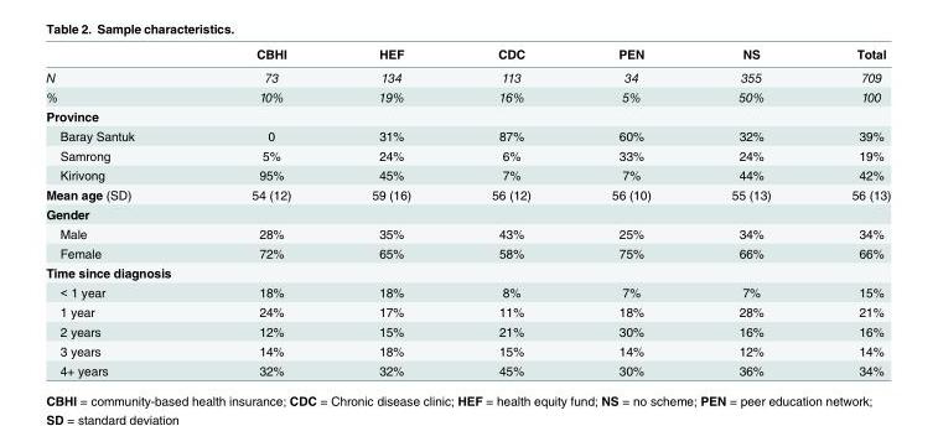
<table><thead><tr><td></td><td>CBHI</td><td>HEF</td><td>CDC</td><td>PEN</td><td>NS</td><td>Total</td></tr></thead><tbody><tr><td>N</td><td>73</td><td>134</td><td>113</td><td>34</td><td>355</td><td>709</td></tr><tr><td>%</td><td>10%</td><td>19%</td><td>16%</td><td>5%</td><td>50%</td><td>100</td></tr><tr><td colspan="7">Province</td></tr><tr><td>Baray Santuk</td><td>0</td><td>31%</td><td>87%</td><td>60%</td><td>32%</td><td>39%</td></tr><tr><td>Samrong</td><td>5%</td><td>24%</td><td>6%</td><td>33%</td><td>24%</td><td>19%</td></tr><tr><td>Kirivong</td><td>95%</td><td>45%</td><td>7%</td><td>7%</td><td>44%</td><td>42%</td></tr><tr><td>Mean age (SD)</td><td>54 (12)</td><td>59 (16)</td><td>56 (12)</td><td>56 (10)</td><td>55 (13)</td><td>56 (13)</td></tr><tr><td colspan="7">Gender</td></tr><tr><td>Male</td><td>28%</td><td>35%</td><td>43%</td><td>25%</td><td>34%</td><td>34%</td></tr><tr><td>Female</td><td>72%</td><td>65%</td><td>58%</td><td>75%</td><td>66%</td><td>66%</td></tr><tr><td colspan="7">Time since diagnosis</td></tr><tr><td>&lt; 1 year</td><td>18%</td><td>18%</td><td>8%</td><td>7%</td><td>7%</td><td>15%</td></tr><tr><td>1 year</td><td>24%</td><td>17%</td><td>11%</td><td>18%</td><td>28%</td><td>21%</td></tr><tr><td>2 years</td><td>12%</td><td>15%</td><td>21%</td><td>30%</td><td>16%</td><td>16%</td></tr><tr><td>3 years</td><td>14%</td><td>18%</td><td>15%</td><td>14%</td><td>12%</td><td>14%</td></tr><tr><td>4+ years</td><td>32%</td><td>32%</td><td>45%</td><td>30%</td><td>36%</td><td>34%</td></tr></tbody></table>